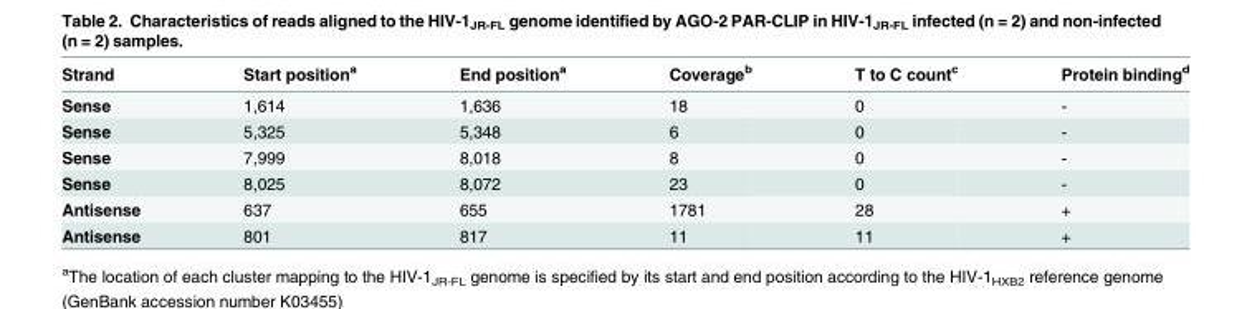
<table><thead><tr><td>Strand</td><td>Start position<sup>a</sup></td><td>End position<sup>a</sup></td><td>Coverage<sup>b</sup></td><td>T to C count<sup>c</sup></td><td>Protein binding<sup>d</sup></td></tr></thead><tbody><tr><td>Sense</td><td>1,614</td><td>1,636</td><td>18</td><td>0</td><td>-</td></tr><tr><td>Sense</td><td>5,325</td><td>5,348</td><td>6</td><td>0</td><td>-</td></tr><tr><td>Sense</td><td>7,999</td><td>8,018</td><td>8</td><td>0</td><td>-</td></tr><tr><td>Sense</td><td>8,025</td><td>8,072</td><td>23</td><td>0</td><td>-</td></tr><tr><td>Antisense</td><td>637</td><td>655</td><td>1781</td><td>28</td><td>+</td></tr><tr><td>Antisense</td><td>801</td><td>817</td><td>11</td><td>11</td><td>+</td></tr></tbody></table>